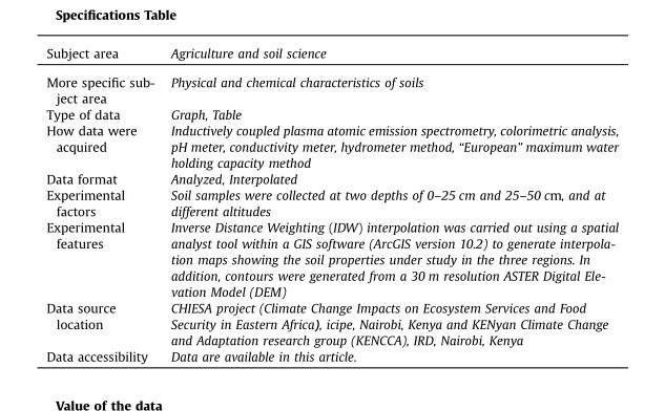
<table><tbody><tr><td>Subject area</td><td>Agriculture and soil science</td></tr><tr><td>More specific sub- ject area</td><td>Physical and chemical characteristics of soils</td></tr><tr><td>Type of data</td><td>Graph, Table</td></tr><tr><td>How data were acquired</td><td>Inductively coupled plasma atomic emission spectrometry, colorimetric analysis, pH meter, conductivity meter, hydrometer method, “European” maximum water holding capacity method</td></tr><tr><td>Data format</td><td>Analyzed, Interpolated</td></tr><tr><td>Experimental factors</td><td>Soil samples were collected at two depths of 0–25 cm and 25–50 cm, and at different altitudes</td></tr><tr><td>Experimental features</td><td>Inverse Distance Weighting (IDW) interpolation was carried out using a spatial analyst tool within a GIS software (ArcGIS version 10.2) to generate interpola- tion maps showing the soil properties under study in the three regions. In addition, contours were generated from a 30 m resolution ASTER Digital Ele- vation Model (DEM)</td></tr><tr><td>Data source location</td><td>CHIESA project (Climate Change Impacts on Ecosystem Services and Food Security in Eastern Africa), icipe, Nairobi, Kenya and KENyan Climate Change and Adaptation research group (KENCCA), IRD, Nairobi, Kenya</td></tr><tr><td>Data accessibility</td><td>Data are available in this article.</td></tr></tbody></table>